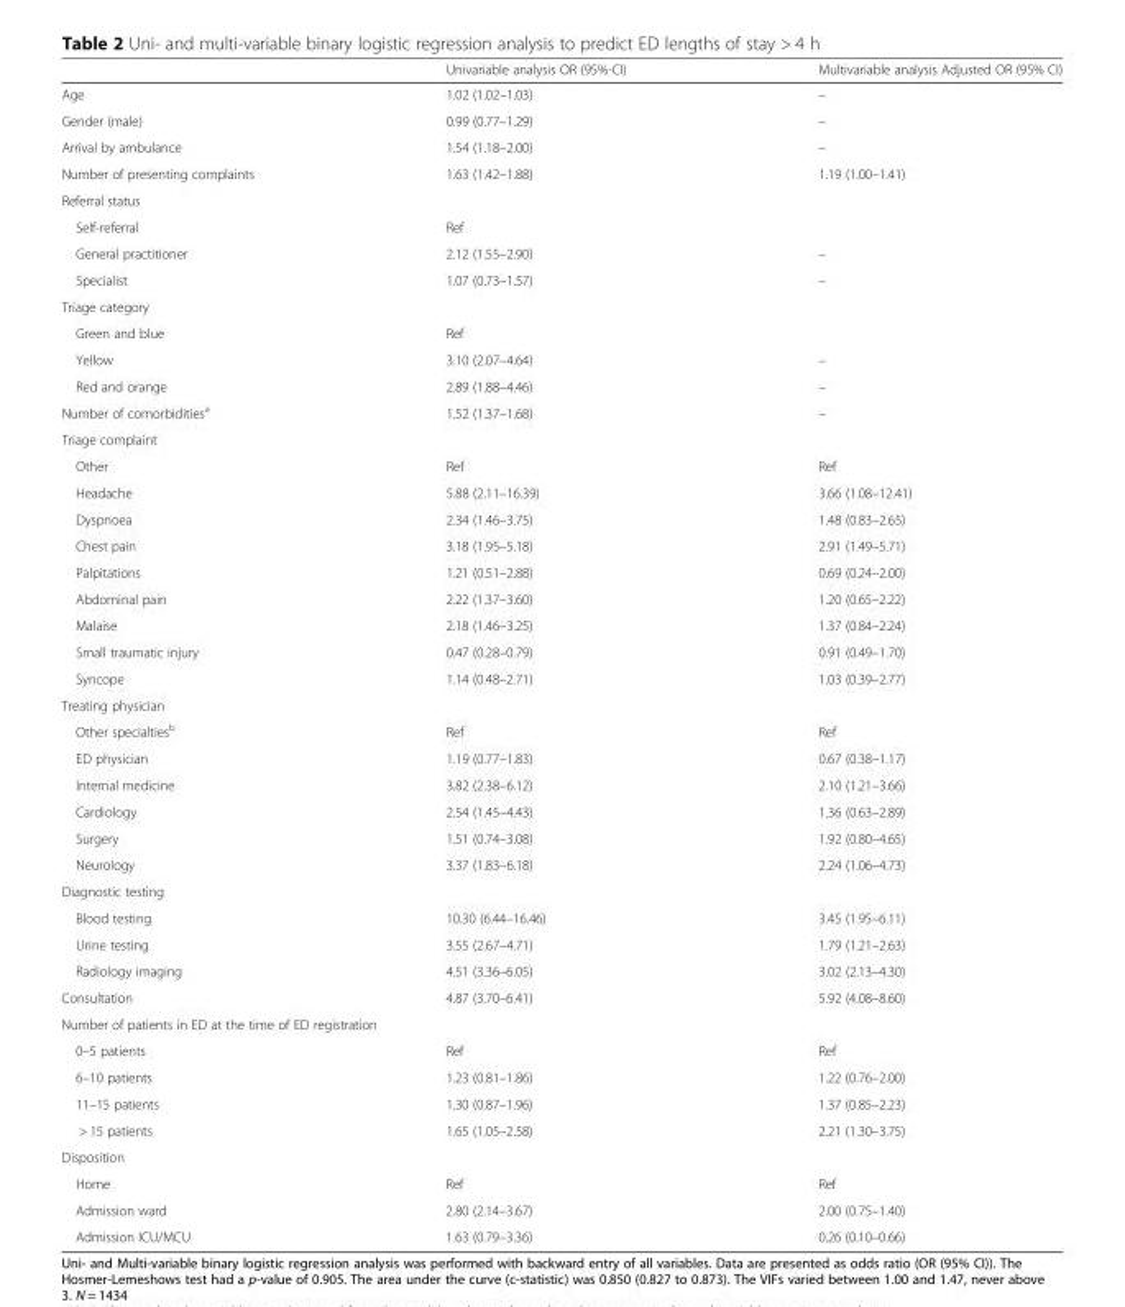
<table><thead><tr><td></td><td>Univariable analysis OR (95%-CI)</td><td>Multivariable analysis Adjusted OR (95% CI)</td></tr></thead><tbody><tr><td>Age</td><td>1.02 (1.02–1.03)</td><td>–</td></tr><tr><td>Gender (male)</td><td>0.99 (0.77–1.29)</td><td>–</td></tr><tr><td>Arrival by ambulance</td><td>1.54 (1.18–2.00)</td><td>–</td></tr><tr><td>Number of presenting complaints</td><td>1.63 (1.42–1.88)</td><td>1.19 (1.00–1.41)</td></tr><tr><td colspan="3">Referral status</td></tr><tr><td>Self-referral</td><td>Ref</td><td></td></tr><tr><td>General practitioner</td><td>2.12 (1.55–2.90)</td><td>–</td></tr><tr><td>Specialist</td><td>1.07 (0.73–1.57)</td><td>–</td></tr><tr><td colspan="3">Triage category</td></tr><tr><td>Green and blue</td><td>Ref</td><td></td></tr><tr><td>Yellow</td><td>3.10 (2.07–4.64)</td><td>–</td></tr><tr><td>Red and orange</td><td>2.89 (1.88–4.46)</td><td>–</td></tr><tr><td>Number of comorbidities<sup>a</sup></td><td>1.52 (1.37–1.68)</td><td>–</td></tr><tr><td colspan="3">Triage complaint</td></tr><tr><td>Other</td><td>Ref</td><td>Ref</td></tr><tr><td>Headache</td><td>5.88 (2.11–16.39)</td><td>3.66 (1.08–12.41)</td></tr><tr><td>Dyspnoea</td><td>2.34 (1.46–3.75)</td><td>1.48 (0.83–2.65)</td></tr><tr><td>Chest pain</td><td>3.18 (1.95–5.18)</td><td>2.91 (1.49–5.71)</td></tr><tr><td>Palpitations</td><td>1.21 (0.51–2.88)</td><td>0.69 (0.24–2.00)</td></tr><tr><td>Abdominal pain</td><td>2.22 (1.37–3.60)</td><td>1.20 (0.65–2.22)</td></tr><tr><td>Malaise</td><td>2.18 (1.46–3.25)</td><td>1.37 (0.84–2.24)</td></tr><tr><td>Small traumatic injury</td><td>0.47 (0.28–0.79)</td><td>0.91 (0.49–1.70)</td></tr><tr><td>Syncope</td><td>1.14 (0.48–2.71)</td><td>1.03 (0.39–2.77)</td></tr><tr><td colspan="3">Treating physician</td></tr><tr><td>Other specialties<sup>b</sup></td><td>Ref</td><td>Ref</td></tr><tr><td>ED physician</td><td>1.19 (0.77–1.83)</td><td>0.67 (0.38–1.17)</td></tr><tr><td>Internal medicine</td><td>3.82 (2.38–6.12)</td><td>2.10 (1.21–3.66)</td></tr><tr><td>Cardiology</td><td>2.54 (1.45–4.43)</td><td>1.36 (0.63–2.89)</td></tr><tr><td>Surgery</td><td>1.51 (0.74–3.08)</td><td>1.92 (0.80–4.65)</td></tr><tr><td>Neurology</td><td>3.37 (1.83–6.18)</td><td>2.24 (1.06–4.73)</td></tr><tr><td colspan="3">Diagnostic testing</td></tr><tr><td>Blood testing</td><td>10.30 (6.44–16.46)</td><td>3.45 (1.95–6.11)</td></tr><tr><td>Urine testing</td><td>3.55 (2.67–4.71)</td><td>1.79 (1.21–2.63)</td></tr><tr><td>Radiology imaging</td><td>4.51 (3.36–6.05)</td><td>3.02 (2.13–4.30)</td></tr><tr><td>Consultation</td><td>4.87 (3.70–6.41)</td><td>5.92 (4.08–8.60)</td></tr><tr><td colspan="3">Number of patients in ED at the time of ED registration</td></tr><tr><td>0–5 patients</td><td>Ref</td><td>Ref</td></tr><tr><td>6–10 patients</td><td>1.23 (0.81–1.86)</td><td>1.22 (0.76–2.00)</td></tr><tr><td>11–15 patients</td><td>1.30 (0.87–1.96)</td><td>1.37 (0.85–2.23)</td></tr><tr><td>&gt; 15 patients</td><td>1.65 (1.05–2.58)</td><td>2.21 (1.30–3.75)</td></tr><tr><td colspan="3">Disposition</td></tr><tr><td>Home</td><td>Ref</td><td>Ref</td></tr><tr><td>Admission ward</td><td>2.80 (2.14–3.67)</td><td>2.00 (0.75–1.40)</td></tr><tr><td>Admission ICU/MCU</td><td>1.63 (0.79–3.36)</td><td>0.26 (0.10–0.66)</td></tr></tbody></table>